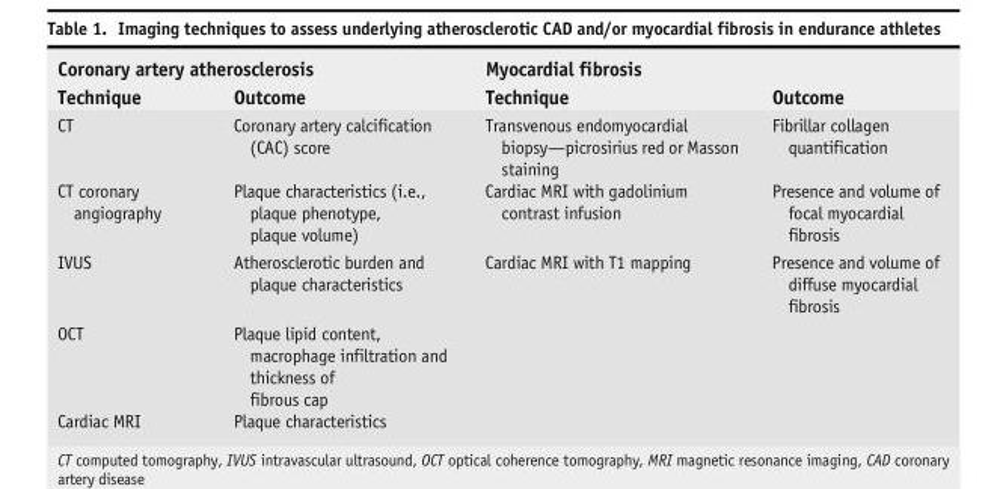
<table><thead><tr><td colspan="2">Coronary artery atherosclerosis</td><td colspan="2">Myocardial fibrosis</td></tr><tr><td>Technique</td><td>Outcome</td><td>Technique</td><td>Outcome</td></tr></thead><tbody><tr><td>CT</td><td>Coronary artery calcification (CAC) score</td><td>Transvenous endomyocardial biopsy—picrosirius red or Masson staining</td><td>Fibrillar collagen quantification</td></tr><tr><td>CT coronary angiography</td><td>Plaque characteristics (i.e., plaque phenotype, plaque volume)</td><td>Cardiac MRI with gadolinium contrast infusion</td><td>Presence and volume of focal myocardial fibrosis</td></tr><tr><td>IVUS</td><td>Atherosclerotic burden and plaque characteristics</td><td>Cardiac MRI with T1 mapping</td><td>Presence and volume of diffuse myocardial fibrosis</td></tr><tr><td>OCT</td><td>Plaque lipid content, macrophage infiltration and thickness of fibrous cap</td><td></td><td></td></tr><tr><td>Cardiac MRI</td><td>Plaque characteristics</td><td></td><td></td></tr></tbody></table>